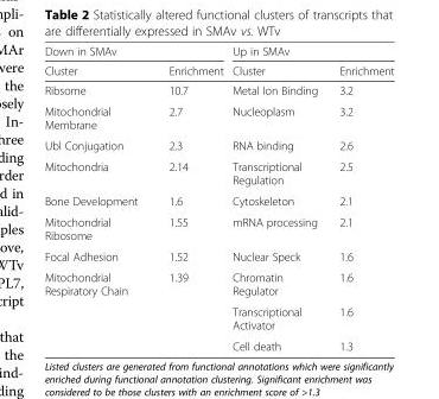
<table><thead><tr><td colspan="2">Down in SMAv</td><td colspan="2">Up in SMAv</td></tr><tr><td>Cluster</td><td>Enrichment</td><td>Cluster</td><td>Enrichment</td></tr></thead><tbody><tr><td>Ribsome</td><td>10.7</td><td>Metal Ion Binding</td><td>3.2</td></tr><tr><td>Mitochondrial Membrane</td><td>2.7</td><td>Nucleoplasm</td><td>3.2</td></tr><tr><td>Ubl Conjugation</td><td>2.3</td><td>RNA binding</td><td>2.6</td></tr><tr><td>Mitochondria</td><td>2.14</td><td>Transcriptional Regulation</td><td>2.5</td></tr><tr><td>Bone Development</td><td>1.6</td><td>Cytoskeleton</td><td>2.1</td></tr><tr><td>Mitochondrial Ribosome</td><td>1.55</td><td>mRNA processing</td><td>2.1</td></tr><tr><td>Focal Adhesion</td><td>1.52</td><td>Nuclear Speck</td><td>1.6</td></tr><tr><td rowspan="3">Mitochondrial Respiratory Chain</td><td>1.39</td><td>Chromatin Regulator</td><td>1.6</td></tr><tr><td></td><td>Transcriptional Activator</td><td>1.6</td></tr><tr><td></td><td>Cell death</td><td>1.3</td></tr></tbody></table>